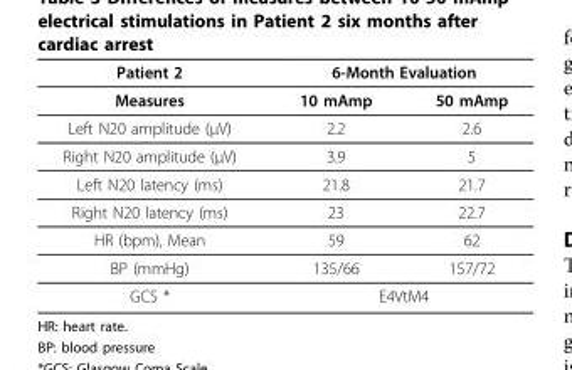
<table><thead><tr><td rowspan="2">Patient 2 Measures</td><td colspan="2">6-Month Evaluation</td></tr><tr><td>10 mAmp</td><td>50 mAmp</td></tr></thead><tbody><tr><td>Left N20 amplitude (μV)</td><td>2.2</td><td>2.6</td></tr><tr><td>Right N20 amplitude (μV)</td><td>3.9</td><td>5</td></tr><tr><td>Left N20 latency (ms)</td><td>21.8</td><td>21.7</td></tr><tr><td>Right N20 latency (ms)</td><td>23</td><td>22.7</td></tr><tr><td>HR (bpm), Mean</td><td>59</td><td>62</td></tr><tr><td>BP (mmHg)</td><td>135/66</td><td>157/72</td></tr><tr><td>GCS *</td><td colspan="2">E4VtM4</td></tr></tbody></table>